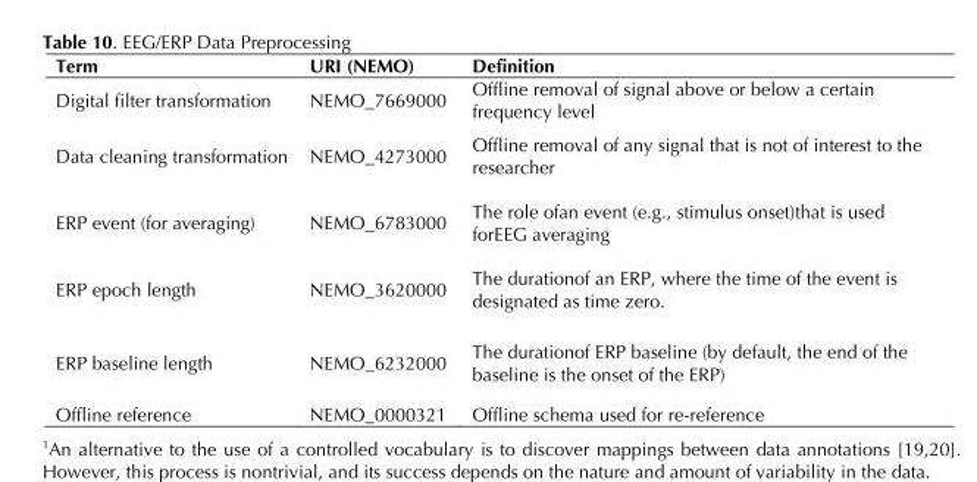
<table><thead><tr><td>Term</td><td>URI (NEMO)</td><td>Definition</td></tr></thead><tbody><tr><td>Digital filter transformation</td><td>NEMO_7669000</td><td>Offline removal of signal above or below a certain frequency level</td></tr><tr><td>Data cleaning transformation</td><td>NEMO_4273000</td><td>Offline removal of any signal that is not of interest to the researcher</td></tr><tr><td>ERP event (for averaging)</td><td>NEMO_6783000</td><td>The role ofan event (e.g., stimulus onset)that is used forEEG averaging</td></tr><tr><td>ERP epoch length</td><td>NEMO_3620000</td><td>The durationof an ERP, where the time of the event is designated as time zero.</td></tr><tr><td>ERP baseline length</td><td>NEMO_6232000</td><td>The durationof ERP baseline (by default, the end of the baseline is the onset of the ERP)</td></tr><tr><td>Offline reference</td><td>NEMO_0000321</td><td>Offline schema used for re-reference</td></tr></tbody></table>